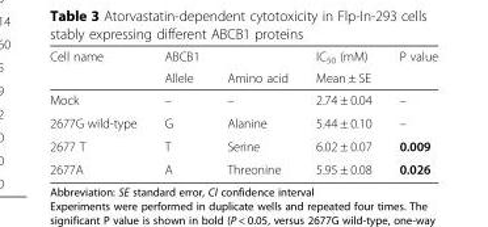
<table><thead><tr><td rowspan="2">Cell name</td><td rowspan="2">ABCB1 Allele</td><td rowspan="2">Amino acid</td><td rowspan="2">IC<sub>50</sub> (mM) Mean ± SE</td><td rowspan="2">P value</td></tr><tr></tr></thead><tbody><tr><td>Mock</td><td>–</td><td>–</td><td>2.74 ± 0.04</td><td>–</td></tr><tr><td>2677G wild-type</td><td>G</td><td>Alanine</td><td>5.44 ± 0.10</td><td>–</td></tr><tr><td>2677 T</td><td>T</td><td>Serine</td><td>6.02 ± 0.07</td><td>0.009</td></tr><tr><td>2677A</td><td>A</td><td>Threonine</td><td>5.95 ± 0.08</td><td>0.026</td></tr></tbody></table>